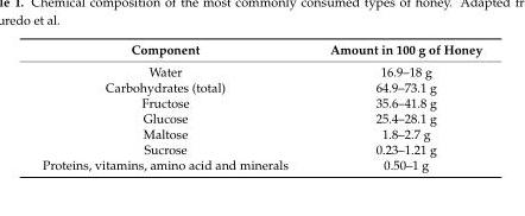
<table><thead><tr><td>Component</td><td>Amount in 100 g of Honey</td></tr></thead><tbody><tr><td>Water</td><td>16.9–18 g</td></tr><tr><td>Carbohydrates (total)</td><td>64.9–73.1 g</td></tr><tr><td>Fructose</td><td>35.6–41.8 g</td></tr><tr><td>Glucose</td><td>25.4–28.1 g</td></tr><tr><td>Maltose</td><td>1.8–2.7 g</td></tr><tr><td>Sucrose</td><td>0.23–1.21 g</td></tr><tr><td>Proteins, vitamins, amino acid and minerals</td><td>0.50–1 g</td></tr></tbody></table>